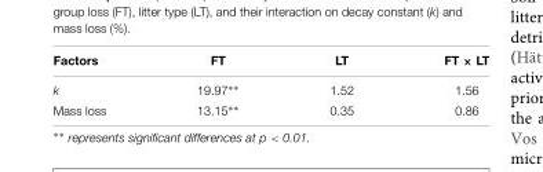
<table><thead><tr><td>Factors</td><td>FT</td><td>LT</td><td>FT × LT</td></tr></thead><tbody><tr><td>k</td><td>19.97∗∗</td><td>1.52</td><td>1.56</td></tr><tr><td>Mass loss</td><td>13.15∗∗</td><td>0.35</td><td>0.86</td></tr></tbody></table>